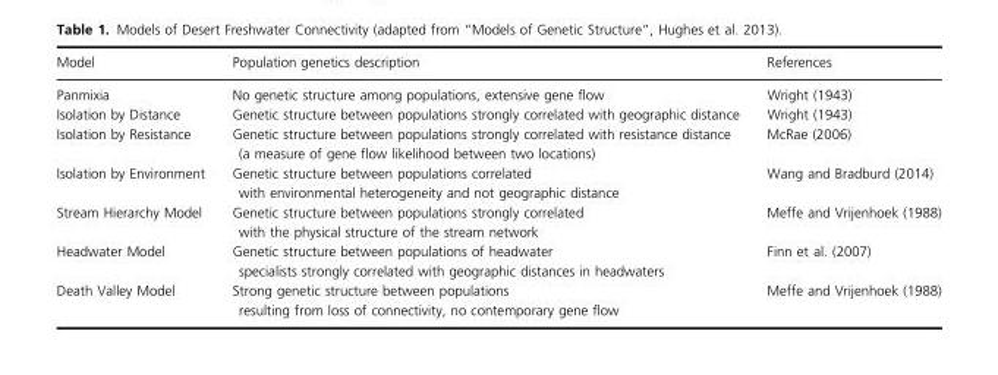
<table><thead><tr><td>Model</td><td>Population genetics description</td><td>References</td></tr></thead><tbody><tr><td>Panmixia</td><td>No genetic structure among populations, extensive gene flow</td><td>Wright (1943)</td></tr><tr><td>Isolation by Distance</td><td>Genetic structure between populations strongly correlated with geographic distance</td><td>Wright (1943)</td></tr><tr><td>Isolation by Resistance</td><td>Genetic structure between populations strongly correlated with resistance distance (a measure of gene flow likelihood between two locations)</td><td>McRae (2006)</td></tr><tr><td>Isolation by Environment</td><td>Genetic structure between populations correlated with environmental heterogeneity and not geographic distance</td><td>Wang and Bradburd (2014)</td></tr><tr><td>Stream Hierarchy Model</td><td>Genetic structure between populations strongly correlated with the physical structure of the stream network</td><td>Meffe and Vrijenhoek (1988)</td></tr><tr><td>Headwater Model</td><td>Genetic structure between populations of headwater specialists strongly correlated with geographic distances in headwaters</td><td>Finn et al. (2007)</td></tr><tr><td>Death Valley Model</td><td>Strong genetic structure between populations resulting from loss of connectivity, no contemporary gene flow</td><td>Meffe and Vrijenhoek (1988)</td></tr></tbody></table>